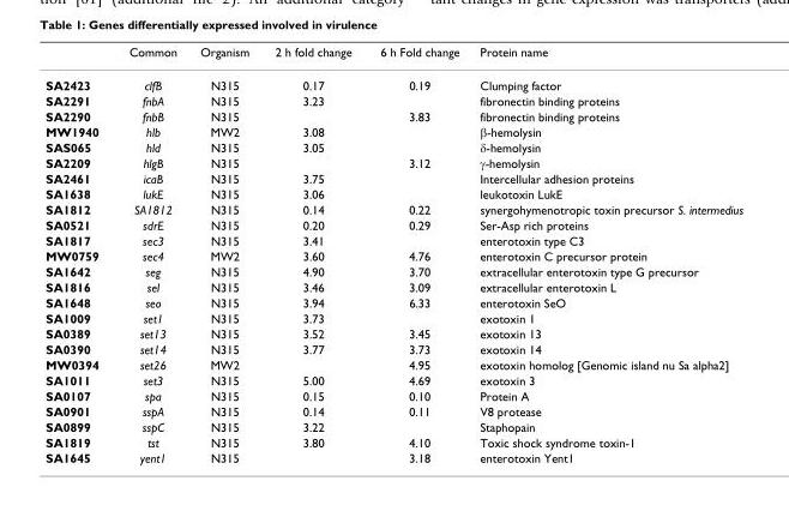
<table><thead><tr><td></td><td>Common</td><td>Organism</td><td>2 h fold change</td><td>6 h Fold change</td><td>Protein name</td></tr></thead><tbody><tr><td>SA2423</td><td>clfB</td><td>N315</td><td>0.17</td><td>0.19</td><td>Clumping factor</td></tr><tr><td>SA2291</td><td>fnbA</td><td>N315</td><td>3.23</td><td></td><td>fibronectin binding proteins</td></tr><tr><td>SA2290</td><td>fnbB</td><td>N315</td><td></td><td>3.83</td><td>fibronectin binding proteins</td></tr><tr><td>MW1940</td><td>hlb</td><td>MW2</td><td>3.08</td><td></td><td>β-hemolysin</td></tr><tr><td>SAS065</td><td>hld</td><td>N315</td><td>3.05</td><td></td><td>δ-hemolysin</td></tr><tr><td>SA2209</td><td>hlgB</td><td>N315</td><td></td><td>3.12</td><td>γ-hemolysin</td></tr><tr><td>SA2461</td><td>icaB</td><td>N315</td><td>3.75</td><td></td><td>Intercellular adhesion proteins</td></tr><tr><td>SA1638</td><td>lukE</td><td>N315</td><td>3.06</td><td></td><td>leukotoxin LukE</td></tr><tr><td>SA1812</td><td>SA1812</td><td>N315</td><td>0.14</td><td>0.22</td><td>synergohymenotropic toxin precursor S. intermedius</td></tr><tr><td>SA0521</td><td>sdrE</td><td>N315</td><td>0.20</td><td>0.29</td><td>Ser-Asp rich proteins</td></tr><tr><td>SA1817</td><td>sec3</td><td>N315</td><td>3.41</td><td></td><td>enterotoxin type C3</td></tr><tr><td>MW0759</td><td>sec4</td><td>MW2</td><td>3.60</td><td>4.76</td><td>enterotoxin C precursor protein</td></tr><tr><td>SA1642</td><td>seg</td><td>N315</td><td>4.90</td><td>3.70</td><td>extracellular enterotoxin type G precursor</td></tr><tr><td>SA1816</td><td>sel</td><td>N315</td><td>3.46</td><td>3.09</td><td>extracellular enterotoxin L</td></tr><tr><td>SA1648</td><td>seo</td><td>N315</td><td>3.94</td><td>6.33</td><td>enterotoxin SeO</td></tr><tr><td>SA1009</td><td>set1</td><td>N315</td><td>3.73</td><td></td><td>exotoxin 1</td></tr><tr><td>SA0389</td><td>set13</td><td>N315</td><td>3.52</td><td>3.45</td><td>exotoxin 13</td></tr><tr><td>SA0390</td><td>set14</td><td>N315</td><td>3.77</td><td>3.73</td><td>exotoxin 14</td></tr><tr><td>MW0394</td><td>set26</td><td>MW2</td><td></td><td>4.95</td><td>exotoxin homolog [Genomic island nu Sa alpha2]</td></tr><tr><td>SA1011</td><td>set3</td><td>N315</td><td>5.00</td><td>4.69</td><td>exotoxin 3</td></tr><tr><td>SA0107</td><td>spa</td><td>N315</td><td>0.15</td><td>0.10</td><td>Protein A</td></tr><tr><td>SA0901</td><td>sspA</td><td>N315</td><td>0.14</td><td>0.11</td><td>V8 protease</td></tr><tr><td>SA0899</td><td>sspC</td><td>N315</td><td>3.22</td><td></td><td>Staphopain</td></tr><tr><td>SA1819</td><td>tst</td><td>N315</td><td>3.80</td><td>4.10</td><td>Toxic shock syndrome toxin-1</td></tr><tr><td>SA1645</td><td>yent1</td><td>N315</td><td></td><td>3.18</td><td>enterotoxin Yent1</td></tr></tbody></table>